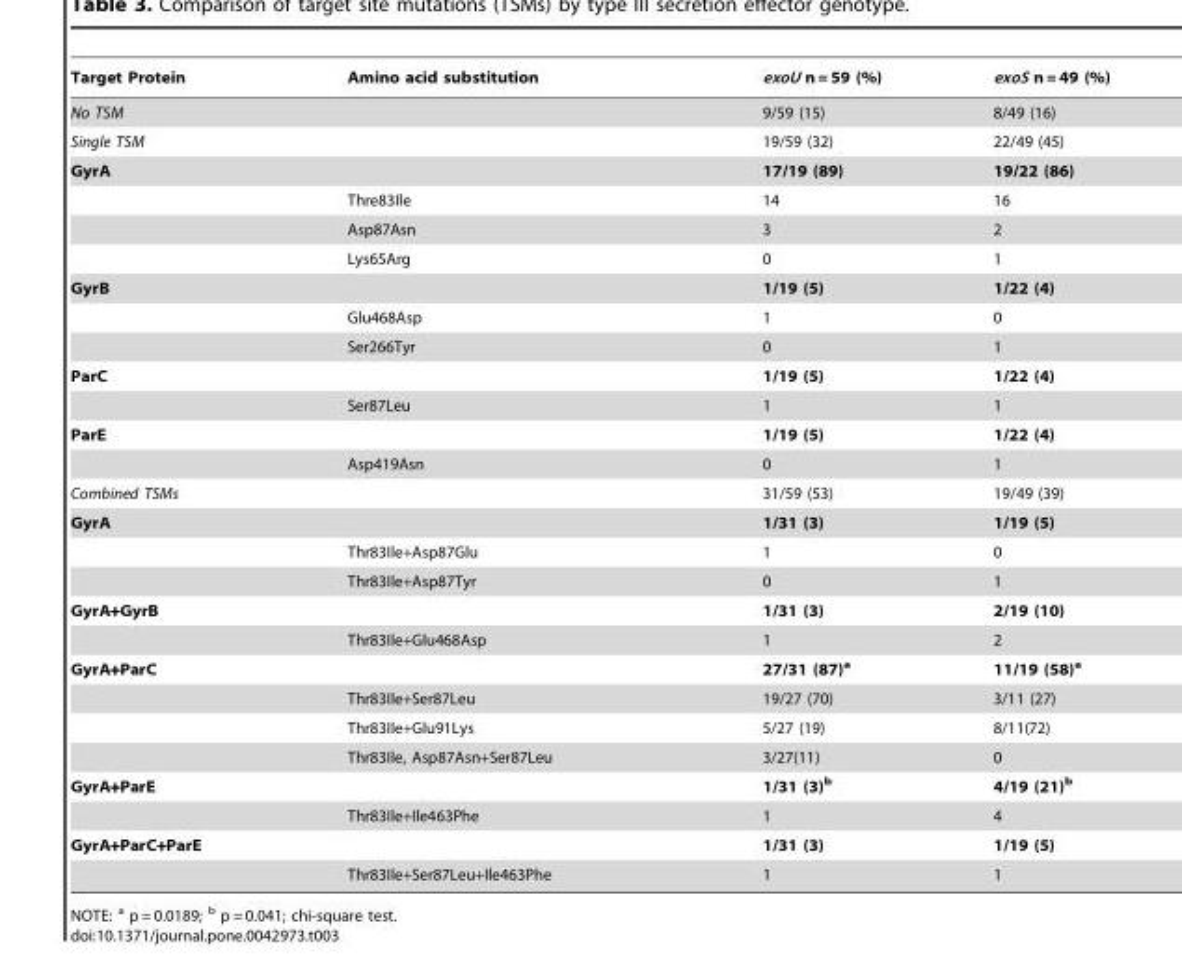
<table><thead><tr><td>Target Protein</td><td>Amino acid substitution</td><td>exoU n = 59 (%)</td><td>exoS n = 49 (%)</td></tr></thead><tbody><tr><td colspan="2">No TSM</td><td>9/59 (15)</td><td>8/49 (16)</td></tr><tr><td colspan="2">Single TSM</td><td>19/59 (32)</td><td>22/49 (45)</td></tr><tr><td colspan="2">GyrA</td><td>17/19 (89)</td><td>19/22 (86)</td></tr><tr><td></td><td>Thre83Ile</td><td>14</td><td>16</td></tr><tr><td></td><td>Asp87Asn</td><td>3</td><td>2</td></tr><tr><td></td><td>Lys65Arg</td><td>0</td><td>1</td></tr><tr><td colspan="2">GyrB</td><td>1/19 (5)</td><td>1/22 (4)</td></tr><tr><td></td><td>Glu468Asp</td><td>1</td><td>0</td></tr><tr><td></td><td>Ser266Tyr</td><td>0</td><td>1</td></tr><tr><td colspan="2">ParC</td><td>1/19 (5)</td><td>1/22 (4)</td></tr><tr><td></td><td>Ser87Leu</td><td>1</td><td>1</td></tr><tr><td colspan="2">ParE</td><td>1/19 (5)</td><td>1/22 (4)</td></tr><tr><td></td><td>Asp419Asn</td><td>0</td><td>1</td></tr><tr><td colspan="2">Combined TSMs</td><td>31/59 (53)</td><td>19/49 (39)</td></tr><tr><td colspan="2">GyrA</td><td>1/31 (3)</td><td>1/19 (5)</td></tr><tr><td></td><td>Thr83Ile+Asp87Glu</td><td>1</td><td>0</td></tr><tr><td></td><td>Thr83Ile+Asp87Tyr</td><td>0</td><td>1</td></tr><tr><td rowspan="2">GyrA+GyrB</td><td></td><td>1/31 (3)</td><td>2/19 (10)</td></tr><tr><td>Thr83Ile+Glu468Asp</td><td>1</td><td>2</td></tr><tr><td rowspan="4">GyrA+ParC</td><td></td><td>27/31 (87)<sup>a</sup></td><td>11/19 (58)<sup>a</sup></td></tr><tr><td>Thr83Ile+Ser87Leu</td><td>19/27 (70)</td><td>3/11 (27)</td></tr><tr><td>Thr83Ile+Glu91Lys</td><td>5/27 (19)</td><td>8/11(72)</td></tr><tr><td>Thr83Ile, Asp87Asn+Ser87Leu</td><td>3/27(11)</td><td>0</td></tr><tr><td rowspan="2">GyrA+ParE</td><td></td><td>1/31 (3)<sup>b</sup></td><td>4/19 (21)<sup>b</sup></td></tr><tr><td>Thr83Ile+Ile463Phe</td><td>1</td><td>4</td></tr><tr><td colspan="2">GyrA+ParC+ParE</td><td>1/31 (3)</td><td>1/19 (5)</td></tr><tr><td></td><td>Thr83Ile+Ser87Leu+Ile463Phe</td><td>1</td><td>1</td></tr></tbody></table>